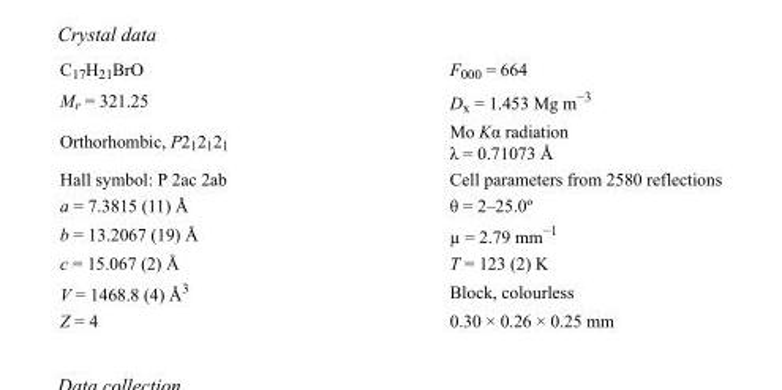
<table><tbody><tr><td>C<sub>17</sub>H<sub>21</sub>BrO</td><td>F<sub>000</sub> = 664</td></tr><tr><td>M<sub>r</sub> = 321.25</td><td>D<sub>x</sub> = 1.453 Mg m<sup>−3</sup></td></tr><tr><td>Orthorhombic, P2<sub>1</sub>2<sub>1</sub>2<sub>1</sub></td><td>Mo Kα radiation λ = 0.71073 Å</td></tr><tr><td>Hall symbol: P 2ac 2ab</td><td>Cell parameters from 2580 reflections</td></tr><tr><td>a = 7.3815 (11) Å</td><td>θ = 2–25.0º</td></tr><tr><td>b = 13.2067 (19) Å</td><td>µ = 2.79 mm<sup>−1</sup></td></tr><tr><td>c = 15.067 (2) Å</td><td>T = 123 (2) K</td></tr><tr><td>V = 1468.8 (4) Å<sup>3</sup></td><td>Block, colourless</td></tr><tr><td>Z = 4</td><td>0.30 × 0.26 × 0.25 mm</td></tr></tbody></table>